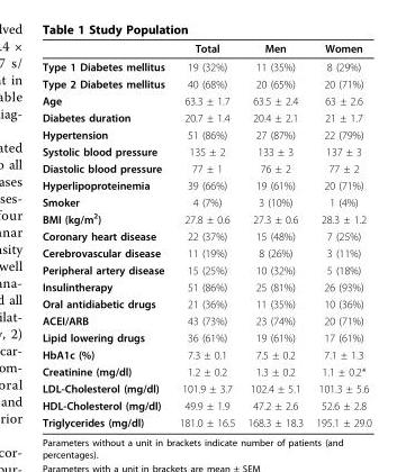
<table><thead><tr><td></td><td>Total</td><td>Men</td><td>Women</td></tr></thead><tbody><tr><td>Type 1 Diabetes mellitus</td><td>19 (32%)</td><td>11 (35%)</td><td>8 (29%)</td></tr><tr><td>Type 2 Diabetes mellitus</td><td>40 (68%)</td><td>20 (65%)</td><td>20 (71%)</td></tr><tr><td>Age</td><td>63.3 ± 1.7</td><td>63.5 ± 2.4</td><td>63 ± 2.6</td></tr><tr><td>Diabetes duration</td><td>20.7 ± 1.4</td><td>20.4 ± 2.1</td><td>21 ± 1.7</td></tr><tr><td>Hypertension</td><td>51 (86%)</td><td>27 (87%)</td><td>22 (79%)</td></tr><tr><td>Systolic blood pressure</td><td>135 ± 2</td><td>133 ± 3</td><td>137 ± 3</td></tr><tr><td>Diastolic blood pressure</td><td>77 ± 1</td><td>76 ± 2</td><td>77 ± 2</td></tr><tr><td>Hyperlipoproteinemia</td><td>39 (66%)</td><td>19 (61%)</td><td>20 (71%)</td></tr><tr><td>Smoker</td><td>4 (7%)</td><td>3 (10%)</td><td>1 (4%)</td></tr><tr><td>BMI (kg/m<sup>2</sup>)</td><td>27.8 ± 0.6</td><td>27.3 ± 0.6</td><td>28.3 ± 1.2</td></tr><tr><td>Coronary heart disease</td><td>22 (37%)</td><td>15 (48%)</td><td>7 (25%)</td></tr><tr><td>Cerebrovascular disease</td><td>11 (19%)</td><td>8 (26%)</td><td>3 (11%)</td></tr><tr><td>Peripheral artery disease</td><td>15 (25%)</td><td>10 (32%)</td><td>5 (18%)</td></tr><tr><td>Insulintherapy</td><td>51 (86%)</td><td>25 (81%)</td><td>26 (93%)</td></tr><tr><td>Oral antidiabetic drugs</td><td>21 (36%)</td><td>11 (35%)</td><td>10 (36%)</td></tr><tr><td>ACEI/ARB</td><td>43 (73%)</td><td>23 (74%)</td><td>20 (71%)</td></tr><tr><td>Lipid lowering drugs</td><td>36 (61%)</td><td>19 (61%)</td><td>17 (61%)</td></tr><tr><td>HbA1c (%)</td><td>7.3 ± 0.1</td><td>7.5 ± 0.2</td><td>7.1 ± 1.3</td></tr><tr><td>Creatinine (mg/dl)</td><td>1.2 ± 0.2</td><td>1.3 ± 0.2</td><td>1.1 ± 0.2*</td></tr><tr><td>LDL-Cholesterol (mg/dl)</td><td>101.9 ± 3.7</td><td>102.4 ± 5.1</td><td>101.3 ± 5.6</td></tr><tr><td>HDL-Cholesterol (mg/dl)</td><td>49.9 ± 1.9</td><td>47.2 ± 2.6</td><td>52.6 ± 2.8</td></tr><tr><td>Triglycerides (mg/dl)</td><td>181.0 ± 16.5</td><td>168.3 ± 18.3</td><td>195.1 ± 29.0</td></tr></tbody></table>